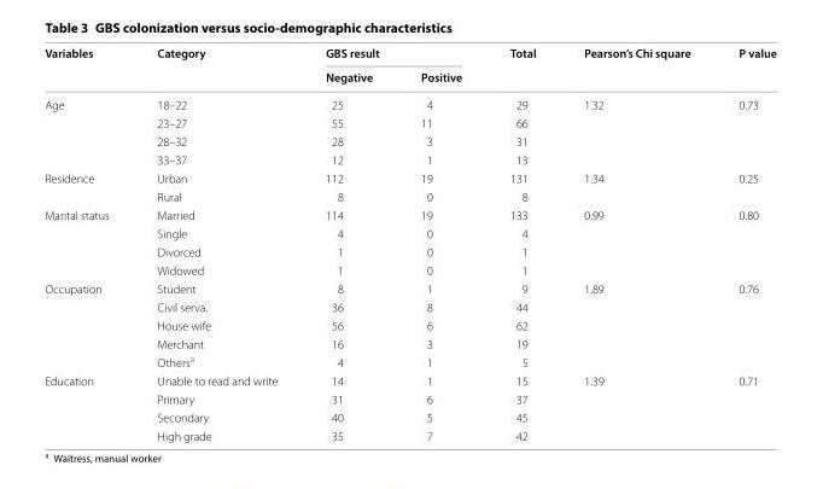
<table><thead><tr><td rowspan="2">Variables</td><td rowspan="2">Category</td><td colspan="2">GBS result</td><td rowspan="2">Total</td><td rowspan="2">Pearson’s Chi square</td><td rowspan="2">P value</td></tr><tr><td>Negative</td><td>Positive</td></tr></thead><tbody><tr><td rowspan="4">Age</td><td>18–22</td><td>25</td><td>4</td><td>29</td><td rowspan="4">1.32</td><td rowspan="4">0.73</td></tr><tr><td>23–27</td><td>55</td><td>11</td><td>66</td></tr><tr><td>28–32</td><td>28</td><td>3</td><td>31</td></tr><tr><td>33–37</td><td>12</td><td>1</td><td>13</td></tr><tr><td rowspan="2">Residence</td><td>Urban</td><td>112</td><td>19</td><td>131</td><td rowspan="2">1.34</td><td rowspan="2">0.25</td></tr><tr><td>Rural</td><td>8</td><td>0</td><td>8</td></tr><tr><td rowspan="4">Marital status</td><td>Married</td><td>114</td><td>19</td><td>133</td><td rowspan="4">0.99</td><td rowspan="4">0.80</td></tr><tr><td>Single</td><td>4</td><td>0</td><td>4</td></tr><tr><td>Divorced</td><td>1</td><td>0</td><td>1</td></tr><tr><td>Widowed</td><td>1</td><td>0</td><td>1</td></tr><tr><td rowspan="5">Occupation</td><td>Student</td><td>8</td><td>1</td><td>9</td><td rowspan="5">1.89</td><td rowspan="5">0.76</td></tr><tr><td>Civil serva.</td><td>36</td><td>8</td><td>44</td></tr><tr><td>House wife</td><td>56</td><td>6</td><td>62</td></tr><tr><td>Merchant</td><td>16</td><td>3</td><td>19</td></tr><tr><td>Others<sup>a</sup></td><td>4</td><td>1</td><td>5</td></tr><tr><td rowspan="4">Education</td><td>Unable to read and write</td><td>14</td><td>1</td><td>15</td><td rowspan="4">1.39</td><td rowspan="4">0.71</td></tr><tr><td>Primary</td><td>31</td><td>6</td><td>37</td></tr><tr><td>Secondary</td><td>40</td><td>5</td><td>45</td></tr><tr><td>High grade</td><td>35</td><td>7</td><td>42</td></tr></tbody></table>